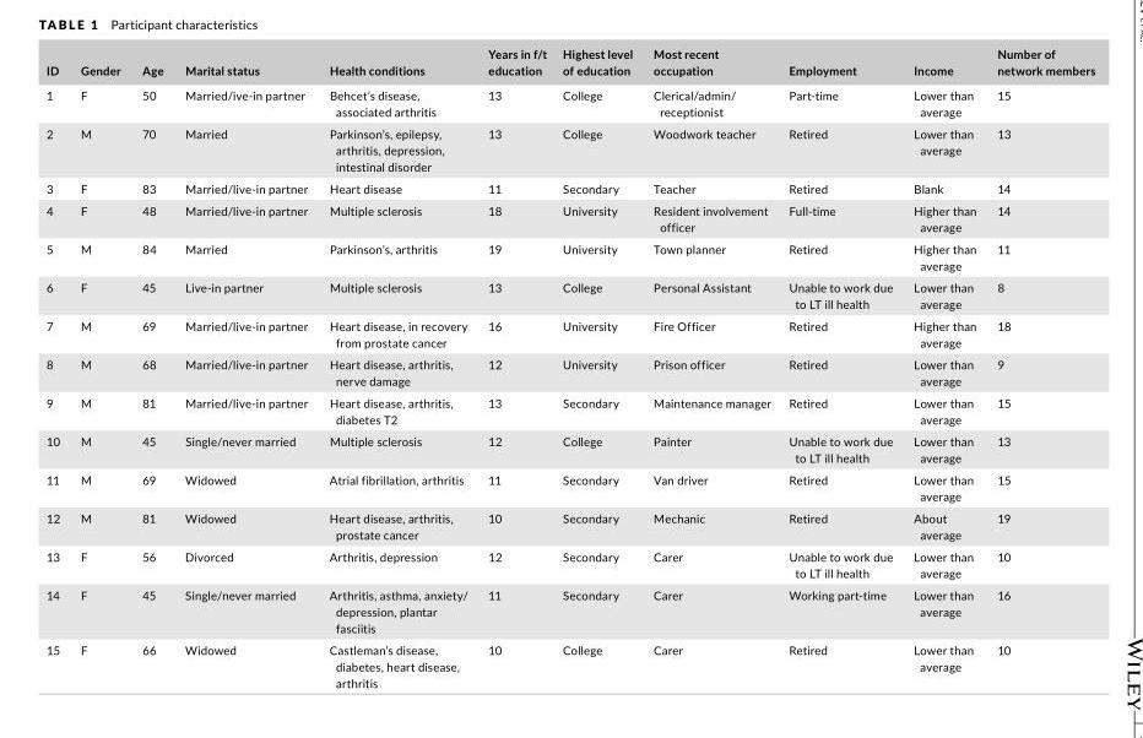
<table><thead><tr><td>ID</td><td>Gender</td><td>Age</td><td>Marital status</td><td>Health conditions</td><td>Years in f/t education</td><td>Highest level of education</td><td>Most recent occupation</td><td>Employment</td><td>Income</td><td>Number of network members</td></tr></thead><tbody><tr><td>1</td><td>F</td><td>50</td><td>Married/ive- in partner</td><td>Behcet’s disease, associated arthritis</td><td>13</td><td>College</td><td>Clerical/admin/ receptionist</td><td>Part- time</td><td>Lower than average</td><td>15</td></tr><tr><td>2</td><td>M</td><td>70</td><td>Married</td><td>Parkinson’s, epilepsy, arthritis, depression, intestinal disorder</td><td>13</td><td>College</td><td>Woodwork teacher</td><td>Retired</td><td>Lower than average</td><td>13</td></tr><tr><td>3</td><td>F</td><td>83</td><td>Married/live- in partner</td><td>Heart disease</td><td>11</td><td>Secondary</td><td>Teacher</td><td>Retired</td><td>Blank</td><td>14</td></tr><tr><td>4</td><td>F</td><td>48</td><td>Married/live- in partner</td><td>Multiple sclerosis</td><td>18</td><td>University</td><td>Resident involvement officer</td><td>Full- time</td><td>Higher than average</td><td>14</td></tr><tr><td>5</td><td>M</td><td>84</td><td>Married</td><td>Parkinson’s, arthritis</td><td>19</td><td>University</td><td>Town planner</td><td>Retired</td><td>Higher than average</td><td>11</td></tr><tr><td>6</td><td>F</td><td>45</td><td>Live- in partner</td><td>Multiple sclerosis</td><td>13</td><td>College</td><td>Personal Assistant</td><td>Unable to work due to LT ill health</td><td>Lower than average</td><td>8</td></tr><tr><td>7</td><td>M</td><td>69</td><td>Married/live- in partner</td><td>Heart disease, in recovery from prostate cancer</td><td>16</td><td>University</td><td>Fire Officer</td><td>Retired</td><td>Higher than average</td><td>18</td></tr><tr><td>8</td><td>M</td><td>68</td><td>Married/live- in partner</td><td>Heart disease, arthritis, nerve damage</td><td>12</td><td>University</td><td>Prison officer</td><td>Retired</td><td>Lower than average</td><td>9</td></tr><tr><td>9</td><td>M</td><td>81</td><td>Married/live- in partner</td><td>Heart disease, arthritis, diabetes T2</td><td>13</td><td>Secondary</td><td>Maintenance manager</td><td>Retired</td><td>Lower than average</td><td>15</td></tr><tr><td>10</td><td>M</td><td>45</td><td>Single/never married</td><td>Multiple sclerosis</td><td>12</td><td>College</td><td>Painter</td><td>Unable to work due to LT ill health</td><td>Lower than average</td><td>13</td></tr><tr><td>11</td><td>M</td><td>69</td><td>Widowed</td><td>Atrial fibrillation, arthritis</td><td>11</td><td>Secondary</td><td>Van driver</td><td>Retired</td><td>Lower than average</td><td>15</td></tr><tr><td>12</td><td>M</td><td>81</td><td>Widowed</td><td>Heart disease, arthritis, prostate cancer</td><td>10</td><td>Secondary</td><td>Mechanic</td><td>Retired</td><td>About average</td><td>19</td></tr><tr><td>13</td><td>F</td><td>56</td><td>Divorced</td><td>Arthritis, depression</td><td>12</td><td>Secondary</td><td>Carer</td><td>Unable to work due to LT ill health</td><td>Lower than average</td><td>10</td></tr><tr><td>14</td><td>F</td><td>45</td><td>Single/never married</td><td>Arthritis, asthma, anxiety/ depression, plantar fasciitis</td><td>11</td><td>Secondary</td><td>Carer</td><td>Working part- time</td><td>Lower than average</td><td>16</td></tr><tr><td>15</td><td>F</td><td>66</td><td>Widowed</td><td>Castleman’s disease, diabetes, heart disease, arthritis</td><td>10</td><td>College</td><td>Carer</td><td>Retired</td><td>Lower than average</td><td>10</td></tr></tbody></table>